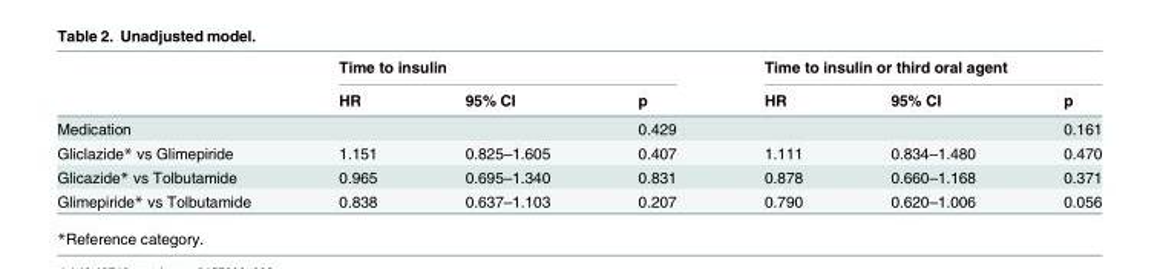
<table><thead><tr><td rowspan="2"></td><td colspan="3">Time to insulin</td><td colspan="3">Time to insulin or third oral agent</td></tr><tr><td>HR</td><td>95% CI</td><td>p</td><td>HR</td><td>95% CI</td><td>p</td></tr></thead><tbody><tr><td>Medication</td><td></td><td></td><td>0.429</td><td></td><td></td><td>0.161</td></tr><tr><td>Gliclazide* vs Glimepiride</td><td>1.151</td><td>0.825–1.605</td><td>0.407</td><td>1.111</td><td>0.834–1.480</td><td>0.470</td></tr><tr><td>Glicazide* vs Tolbutamide</td><td>0.965</td><td>0.695–1.340</td><td>0.831</td><td>0.878</td><td>0.660–1.168</td><td>0.371</td></tr><tr><td>Glimepiride* vs Tolbutamide</td><td>0.838</td><td>0.637–1.103</td><td>0.207</td><td>0.790</td><td>0.620–1.006</td><td>0.056</td></tr></tbody></table>